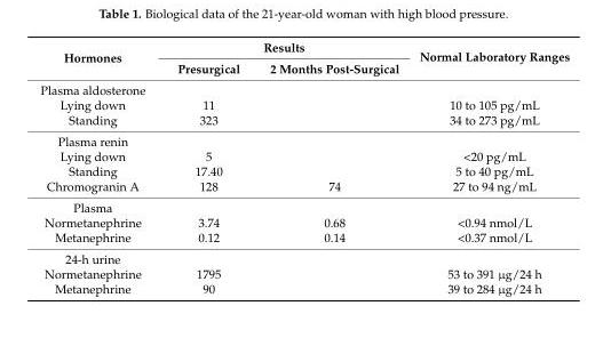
<table><thead><tr><td rowspan="2">Hormones</td><td colspan="2">Results</td><td rowspan="2">Normal Laboratory Ranges</td></tr><tr><td>Presurgical</td><td>2 Months Post-Surgical</td></tr></thead><tbody><tr><td colspan="4">Plasma aldosterone</td></tr><tr><td>Lying down</td><td>11</td><td></td><td>10 to 105 pg/mL</td></tr><tr><td>Standing</td><td>323</td><td></td><td>34 to 273 pg/mL</td></tr><tr><td colspan="4">Plasma renin</td></tr><tr><td>Lying down</td><td>5</td><td></td><td>&lt;20 pg/mL</td></tr><tr><td>Standing</td><td>17.40</td><td></td><td>5 to 40 pg/mL</td></tr><tr><td>Chromogranin A</td><td>128</td><td>74</td><td>27 to 94 ng/mL</td></tr><tr><td colspan="4">Plasma</td></tr><tr><td>Normetanephrine</td><td>3.74</td><td>0.68</td><td>&lt;0.94 nmol/L</td></tr><tr><td>Metanephrine</td><td>0.12</td><td>0.14</td><td>&lt;0.37 nmol/L</td></tr><tr><td colspan="4">24-h urine</td></tr><tr><td>Normetanephrine</td><td>1795</td><td></td><td>53 to 391 µg/24 h</td></tr><tr><td>Metanephrine</td><td>90</td><td></td><td>39 to 284 µg/24 h</td></tr></tbody></table>